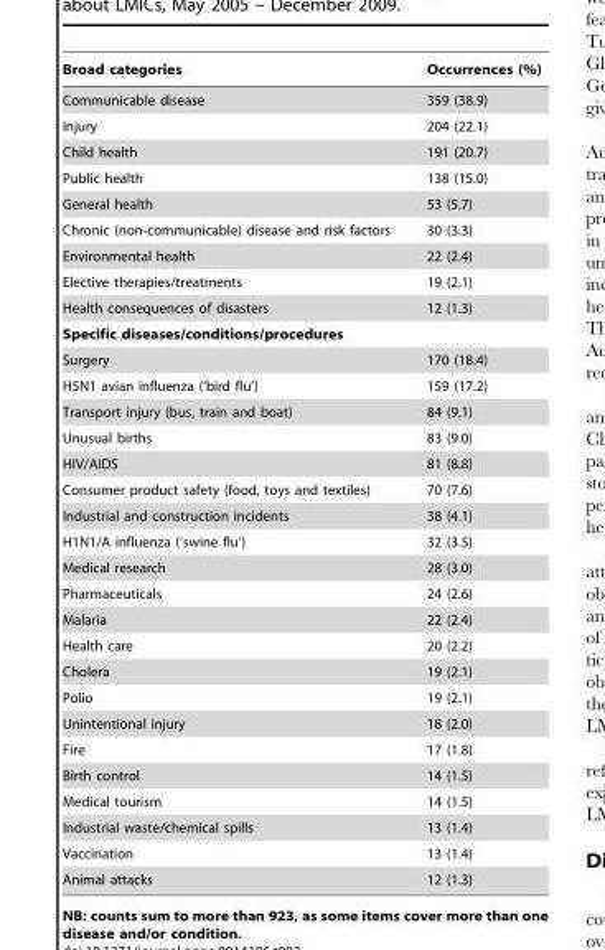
<table><thead><tr><td>Broad categories</td><td>Occurrences (%)</td></tr></thead><tbody><tr><td>Communicable disease</td><td>359 (38.9)</td></tr><tr><td>Injury</td><td>204 (22.1)</td></tr><tr><td>Child health</td><td>191 (20.7)</td></tr><tr><td>Public health</td><td>138 (15.0)</td></tr><tr><td>General health</td><td>53 (5.7)</td></tr><tr><td>Chronic (non-communicable) disease and risk factors</td><td>30 (3.3)</td></tr><tr><td>Environmental health</td><td>22 (2.4)</td></tr><tr><td>Elective therapies/treatments</td><td>19 (2.1)</td></tr><tr><td>Health consequences of disasters</td><td>12 (1.3)</td></tr><tr><td colspan="2">Specific diseases/conditions/procedures</td></tr><tr><td>Surgery</td><td>170 (18.4)</td></tr><tr><td>H5N1 avian influenza (‘bird flu’)</td><td>159 (17.2)</td></tr><tr><td>Transport injury (bus, train and boat)</td><td>84 (9.1)</td></tr><tr><td>Unusual births</td><td>83 (9.0)</td></tr><tr><td>HIV/AIDS</td><td>81 (8.8)</td></tr><tr><td>Consumer product safety (food, toys and textiles)</td><td>70 (7.6)</td></tr><tr><td>Industrial and construction incidents</td><td>38 (4.1)</td></tr><tr><td>H1N1/A influenza (‘swine flu’)</td><td>32 (3.5)</td></tr><tr><td>Medical research</td><td>28 (3.0)</td></tr><tr><td>Pharmaceuticals</td><td>24 (2.6)</td></tr><tr><td>Malaria</td><td>22 (2.4)</td></tr><tr><td>Health care</td><td>20 (2.2)</td></tr><tr><td>Cholera</td><td>19 (2.1)</td></tr><tr><td>Polio</td><td>19 (2.1)</td></tr><tr><td>Unintentional injury</td><td>18 (2.0)</td></tr><tr><td>Fire</td><td>17 (1.8)</td></tr><tr><td>Birth control</td><td>14 (1.5)</td></tr><tr><td>Medical tourism</td><td>14 (1.5)</td></tr><tr><td>Industrial waste/chemical spills</td><td>13 (1.4)</td></tr><tr><td>Vaccination</td><td>13 (1.4)</td></tr><tr><td>Animal attacks</td><td>12 (1.3)</td></tr></tbody></table>